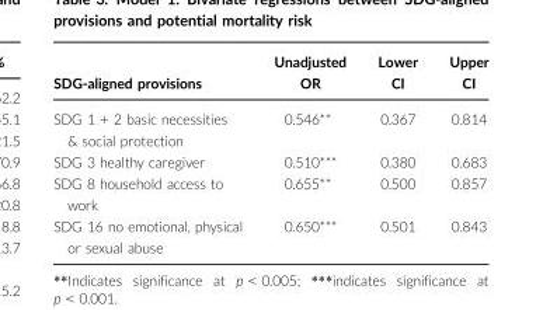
<table><thead><tr><td>SDG-aligned provisions</td><td>Unadjusted OR</td><td>Lower CI</td><td>Upper CI</td></tr></thead><tbody><tr><td>SDG 1 + 2 basic necessities &amp; social protection</td><td>0.546**</td><td>0.367</td><td>0.814</td></tr><tr><td>SDG 3 healthy caregiver</td><td>0.510***</td><td>0.380</td><td>0.683</td></tr><tr><td>SDG 8 household access to work</td><td>0.655**</td><td>0.500</td><td>0.857</td></tr><tr><td>SDG 16 no emotional, physical or sexual abuse</td><td>0.650***</td><td>0.501</td><td>0.843</td></tr></tbody></table>